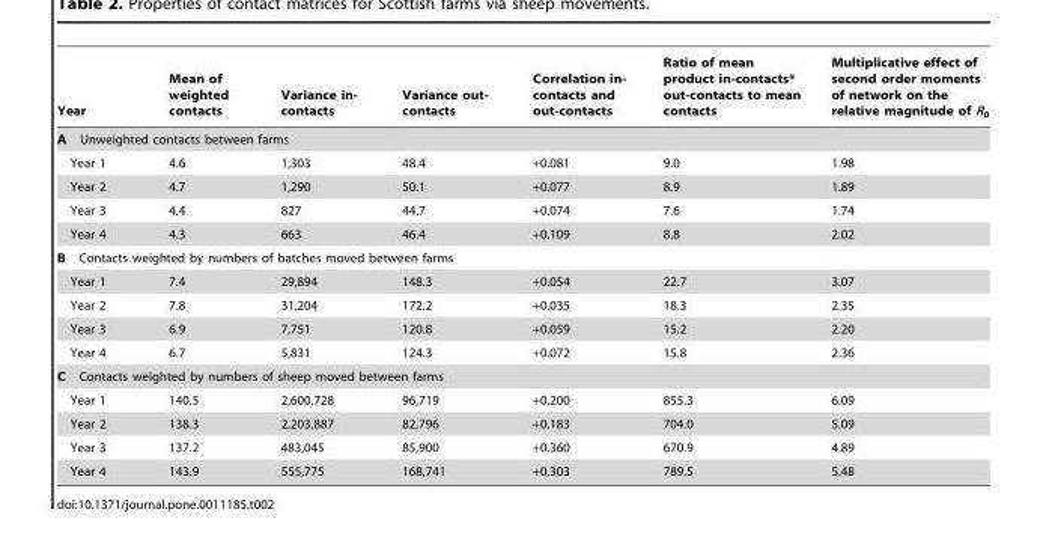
<table><thead><tr><td>Year</td><td>Mean of weighted contacts</td><td>Variance in- contacts</td><td>Variance out- contacts</td><td>Correlation in- contacts and out-contacts</td><td>Ratio of mean product in-contacts* out-contacts to mean contacts</td><td>Multiplicative effect of second order moments of network on the relative magnitude of R<sub>0</sub></td></tr></thead><tbody><tr><td colspan="7">A Unweighted contacts between farms</td></tr><tr><td>Year 1</td><td>4.6</td><td>1,303</td><td>48.4</td><td>+0.081</td><td>9.0</td><td>1.98</td></tr><tr><td>Year 2</td><td>4.7</td><td>1,290</td><td>50.1</td><td>+0.077</td><td>8.9</td><td>1.89</td></tr><tr><td>Year 3</td><td>4.4</td><td>827</td><td>44.7</td><td>+0.074</td><td>7.6</td><td>1.74</td></tr><tr><td>Year 4</td><td>4.3</td><td>663</td><td>46.4</td><td>+0.109</td><td>8.8</td><td>2.02</td></tr><tr><td colspan="7">B Contacts weighted by numbers of batches moved between farms</td></tr><tr><td>Year 1</td><td>7.4</td><td>29,894</td><td>148.3</td><td>+0.054</td><td>22.7</td><td>3.07</td></tr><tr><td>Year 2</td><td>7.8</td><td>31,204</td><td>172.2</td><td>+0.035</td><td>18.3</td><td>2.35</td></tr><tr><td>Year 3</td><td>6.9</td><td>7,751</td><td>120.8</td><td>+0.059</td><td>15.2</td><td>2.20</td></tr><tr><td>Year 4</td><td>6.7</td><td>5,831</td><td>124.3</td><td>+0.072</td><td>15.8</td><td>2.36</td></tr><tr><td colspan="7">C Contacts weighted by numbers of sheep moved between farms</td></tr><tr><td>Year 1</td><td>140.5</td><td>2,600,728</td><td>96,719</td><td>+0.200</td><td>855.3</td><td>6.09</td></tr><tr><td>Year 2</td><td>138.3</td><td>2,203,887</td><td>82,796</td><td>+0.183</td><td>704.0</td><td>5.09</td></tr><tr><td>Year 3</td><td>137.2</td><td>483,045</td><td>85,900</td><td>+0.360</td><td>670.9</td><td>4.89</td></tr><tr><td>Year 4</td><td>143.9</td><td>555,775</td><td>168,741</td><td>+0.303</td><td>789.5</td><td>5.48</td></tr></tbody></table>